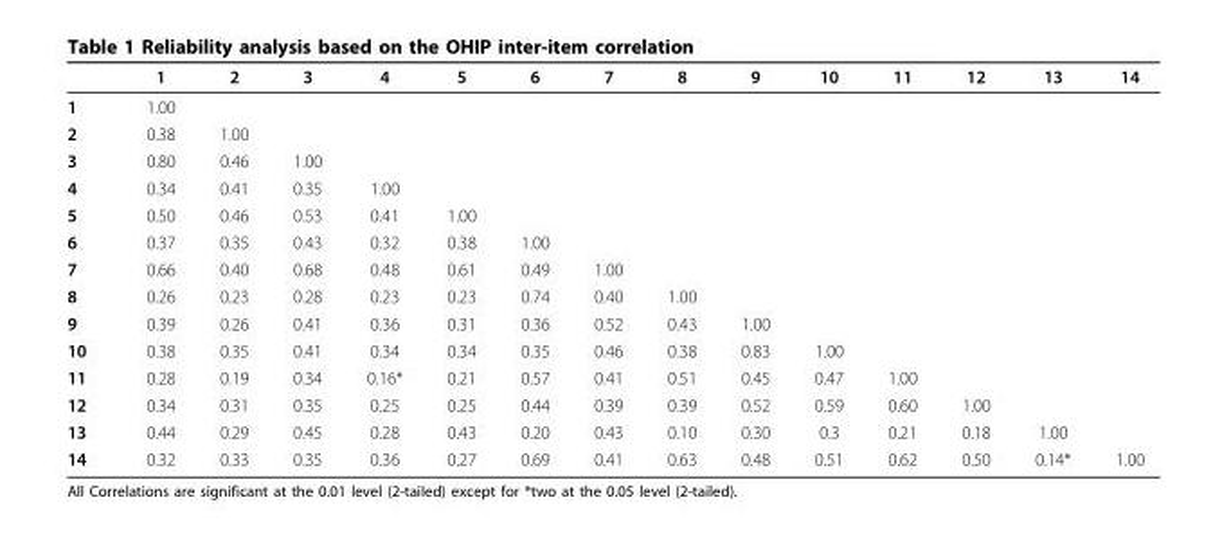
<table><thead><tr><td></td><td>1</td><td>2</td><td>3</td><td>4</td><td>5</td><td>6</td><td>7</td><td>8</td><td>9</td><td>10</td><td>11</td><td>12</td><td>13</td><td>14</td></tr></thead><tbody><tr><td>1</td><td>1.00</td><td></td><td></td><td></td><td></td><td></td><td></td><td></td><td></td><td></td><td></td><td></td><td></td><td></td></tr><tr><td>2</td><td>0.38</td><td>1.00</td><td></td><td></td><td></td><td></td><td></td><td></td><td></td><td></td><td></td><td></td><td></td><td></td></tr><tr><td>3</td><td>0.80</td><td>0.46</td><td>1.00</td><td></td><td></td><td></td><td></td><td></td><td></td><td></td><td></td><td></td><td></td><td></td></tr><tr><td>4</td><td>0.34</td><td>0.41</td><td>0.35</td><td>1.00</td><td></td><td></td><td></td><td></td><td></td><td></td><td></td><td></td><td></td><td></td></tr><tr><td>5</td><td>0.50</td><td>0.46</td><td>0.53</td><td>0.41</td><td>1.00</td><td></td><td></td><td></td><td></td><td></td><td></td><td></td><td></td><td></td></tr><tr><td>6</td><td>0.37</td><td>0.35</td><td>0.43</td><td>0.32</td><td>0.38</td><td>1.00</td><td></td><td></td><td></td><td></td><td></td><td></td><td></td><td></td></tr><tr><td>7</td><td>0.66</td><td>0.40</td><td>0.68</td><td>0.48</td><td>0.61</td><td>0.49</td><td>1.00</td><td></td><td></td><td></td><td></td><td></td><td></td><td></td></tr><tr><td>8</td><td>0.26</td><td>0.23</td><td>0.28</td><td>0.23</td><td>0.23</td><td>0.74</td><td>0.40</td><td>1.00</td><td></td><td></td><td></td><td></td><td></td><td></td></tr><tr><td>9</td><td>0.39</td><td>0.26</td><td>0.41</td><td>0.36</td><td>0.31</td><td>0.36</td><td>0.52</td><td>0.43</td><td>1.00</td><td></td><td></td><td></td><td></td><td></td></tr><tr><td>10</td><td>0.38</td><td>0.35</td><td>0.41</td><td>0.34</td><td>0.34</td><td>0.35</td><td>0.46</td><td>0.38</td><td>0.83</td><td>1.00</td><td></td><td></td><td></td><td></td></tr><tr><td>11</td><td>0.28</td><td>0.19</td><td>0.34</td><td>0.16*</td><td>0.21</td><td>0.57</td><td>0.41</td><td>0.51</td><td>0.45</td><td>0.47</td><td>1.00</td><td></td><td></td><td></td></tr><tr><td>12</td><td>0.34</td><td>0.31</td><td>0.35</td><td>0.25</td><td>0.25</td><td>0.44</td><td>0.39</td><td>0.39</td><td>0.52</td><td>0.59</td><td>0.60</td><td>1.00</td><td></td><td></td></tr><tr><td>13</td><td>0.44</td><td>0.29</td><td>0.45</td><td>0.28</td><td>0.43</td><td>0.20</td><td>0.43</td><td>0.10</td><td>0.30</td><td>0.3</td><td>0.21</td><td>0.18</td><td>1.00</td><td></td></tr><tr><td>14</td><td>0.32</td><td>0.33</td><td>0.35</td><td>0.36</td><td>0.27</td><td>0.69</td><td>0.41</td><td>0.63</td><td>0.48</td><td>0.51</td><td>0.62</td><td>0.50</td><td>0.14*</td><td>1.00</td></tr></tbody></table>